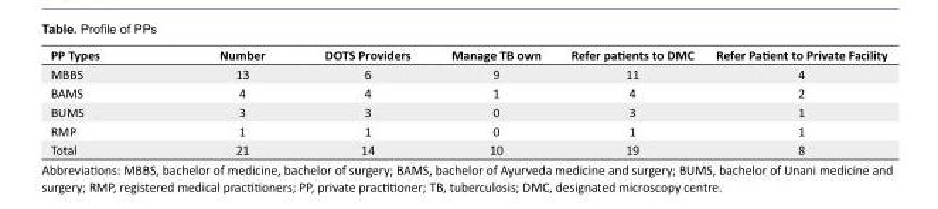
<table><tbody><tr><td>PP Types</td><td>Number</td><td>DOTS Providers</td><td>Manage TB own</td><td>Refer patients to DMC</td><td>Refer Patient to Private Facility</td></tr><tr><td>MBBS</td><td>13</td><td>6</td><td>9</td><td>11</td><td>4</td></tr><tr><td>BAMS</td><td>4</td><td>4</td><td>1</td><td>4</td><td>2</td></tr><tr><td>BUMS</td><td>3</td><td>3</td><td>0</td><td>3</td><td>1</td></tr><tr><td>RMP</td><td>1</td><td>1</td><td>0</td><td>1</td><td>1</td></tr><tr><td>Total</td><td>21</td><td>14</td><td>10</td><td>19</td><td>8</td></tr></tbody></table>